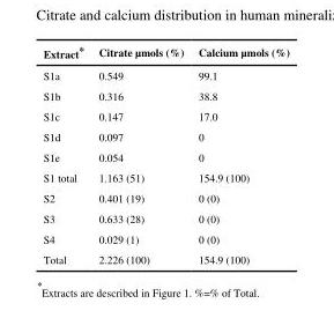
<table><thead><tr><td>Extract*</td><td>Citrate μmols (%)</td><td>Calcium μmols (%)</td></tr></thead><tbody><tr><td>S1a</td><td>0.549</td><td>99.1</td></tr><tr><td>S1b</td><td>0.316</td><td>38.8</td></tr><tr><td>S1c</td><td>0.147</td><td>17.0</td></tr><tr><td>S1d</td><td>0.097</td><td>0</td></tr><tr><td>S1e</td><td>0.054</td><td>0</td></tr><tr><td>S1 total</td><td>1.163 (51)</td><td>154.9 (100)</td></tr><tr><td>S2</td><td>0.401 (19)</td><td>0 (0)</td></tr><tr><td>S3</td><td>0.633 (28)</td><td>0 (0)</td></tr><tr><td>S4</td><td>0.029 (1)</td><td>0 (0)</td></tr><tr><td>Total</td><td>2.226 (100)</td><td>154.9 (100)</td></tr></tbody></table>